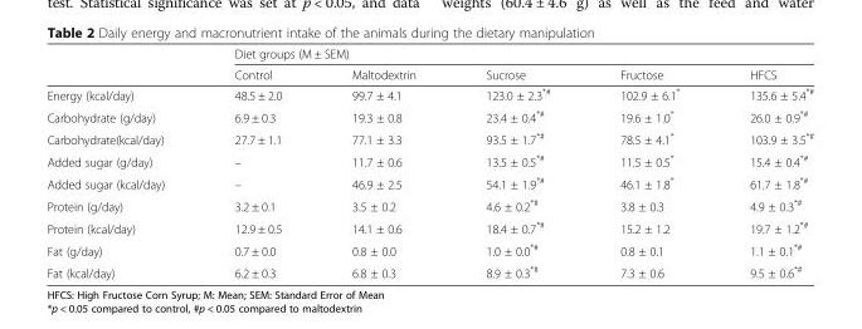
<table><thead><tr><td rowspan="2"></td><td colspan="5">Diet groups (M ± SEM)</td></tr><tr><td>Control</td><td>Maltodextrin</td><td>Sucrose</td><td>Fructose</td><td>HFCS</td></tr></thead><tbody><tr><td>Energy (kcal/day)</td><td>48.5 ± 2.0</td><td>99.7 ± 4.1</td><td>123.0 ± 2.3<sup>*#</sup></td><td>102.9 ± 6.1*</td><td>135.6 ± 5.4<sup>*#</sup></td></tr><tr><td>Carbohydrate (g/day)</td><td>6.9 ± 0.3</td><td>19.3 ± 0.8</td><td>23.4 ± 0.4<sup>*#</sup></td><td>19.6 ± 1.0*</td><td>26.0 ± 0.9<sup>*#</sup></td></tr><tr><td>Carbohydrate(kcal/day)</td><td>27.7 ± 1.1</td><td>77.1 ± 3.3</td><td>93.5 ± 1.7<sup>*#</sup></td><td>78.5 ± 4.1*</td><td>103.9 ± 3.5<sup>*#</sup></td></tr><tr><td>Added sugar (g/day)</td><td>–</td><td>11.7 ± 0.6</td><td>13.5 ± 0.5<sup>*#</sup></td><td>11.5 ± 0.5*</td><td>15.4 ± 0.4<sup>*#</sup></td></tr><tr><td>Added sugar (kcal/day)</td><td>–</td><td>46.9 ± 2.5</td><td>54.1 ± 1.9<sup>*#</sup></td><td>46.1 ± 1.8*</td><td>61.7 ± 1.8<sup>*#</sup></td></tr><tr><td>Protein (g/day)</td><td>3.2 ± 0.1</td><td>3.5 ± 0.2</td><td>4.6 ± 0.2<sup>*#</sup></td><td>3.8 ± 0.3</td><td>4.9 ± 0.3<sup>*#</sup></td></tr><tr><td>Protein (kcal/day)</td><td>12.9 ± 0.5</td><td>14.1 ± 0.6</td><td>18.4 ± 0.7<sup>*#</sup></td><td>15.2 ± 1.2</td><td>19.7 ± 1.2<sup>*#</sup></td></tr><tr><td>Fat (g/day)</td><td>0.7 ± 0.0</td><td>0.8 ± 0.0</td><td>1.0 ± 0.0<sup>*#</sup></td><td>0.8 ± 0.1</td><td>1.1 ± 0.1<sup>*#</sup></td></tr><tr><td>Fat (kcal/day)</td><td>6.2 ± 0.3</td><td>6.8 ± 0.3</td><td>8.9 ± 0.3<sup>*#</sup></td><td>7.3 ± 0.6</td><td>9.5 ± 0.6<sup>*#</sup></td></tr></tbody></table>